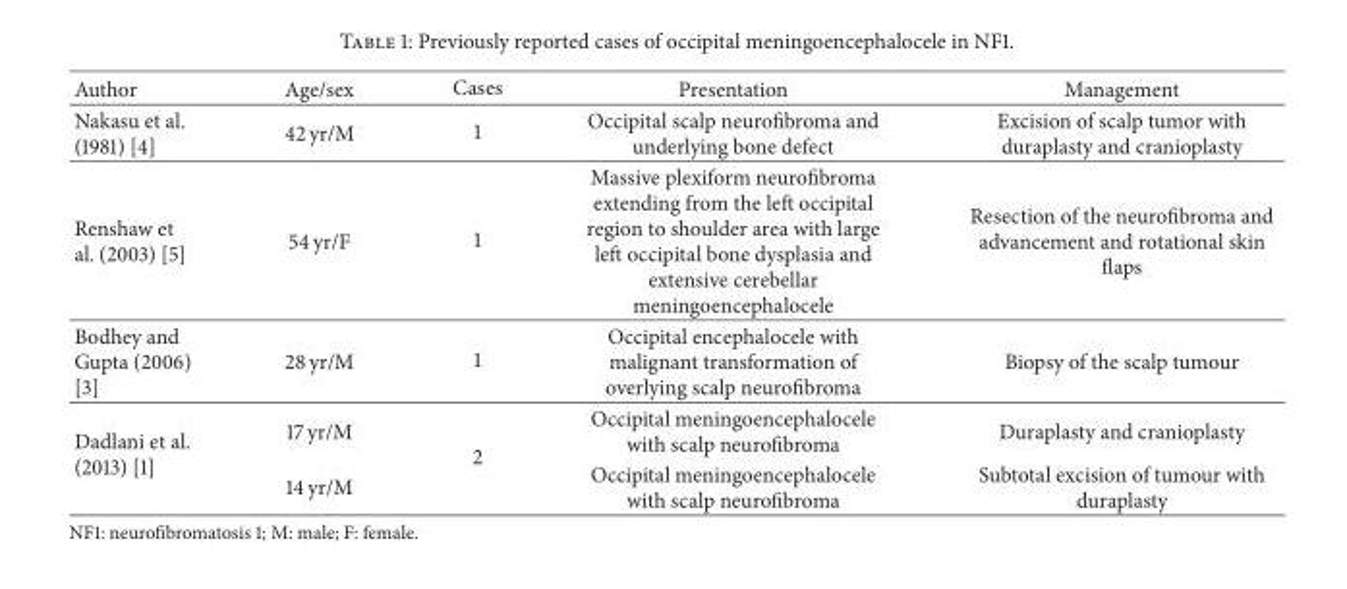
<table><thead><tr><td>Author</td><td>Age/sex</td><td>Cases</td><td>Presentation</td><td>Management</td></tr></thead><tbody><tr><td>Nakasu et al. (1981) [4]</td><td>42 yr/M</td><td>1</td><td>Occipital scalp neurofibroma and underlying bone defect</td><td>Excision of scalp tumor with duraplasty and cranioplasty</td></tr><tr><td>Renshaw et al. (2003) [5]</td><td>54 yr/F</td><td>1</td><td>Massive plexiform neurofibroma extending from the left occipital region to shoulder area with large left occipital bone dysplasia and extensive cerebellar meningoencephalocele</td><td>Resection of the neurofibroma and advancement and rotational skin flaps</td></tr><tr><td>Bodhey and Gupta (2006) [3]</td><td>28 yr/M</td><td>1</td><td>Occipital encephalocele with malignant transformation of overlying scalp neurofibroma</td><td>Biopsy of the scalp tumour</td></tr><tr><td rowspan="2">Dadlani et al. (2013) [1]</td><td>17 yr/M</td><td rowspan="2">2</td><td>Occipital meningoencephalocele with scalp neurofibroma</td><td>Duraplasty and cranioplasty</td></tr><tr><td>14 yr/M</td><td>Occipital meningoencephalocele with scalp neurofibroma</td><td>Subtotal excision of tumour with duraplasty</td></tr></tbody></table>